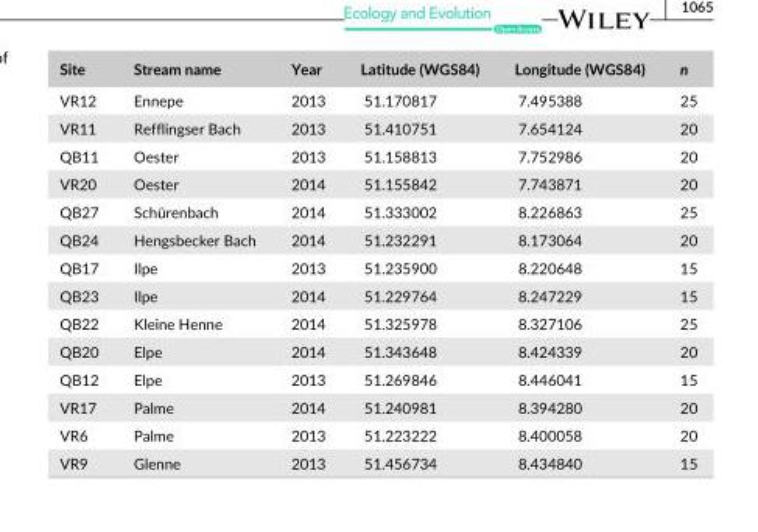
<table><thead><tr><td>Site</td><td>Stream name</td><td>Year</td><td>Latitude (WGS84)</td><td>Longitude (WGS84)</td><td>n</td></tr></thead><tbody><tr><td>VR12</td><td>Ennepe</td><td>2013</td><td>51.170817</td><td>7.495388</td><td>25</td></tr><tr><td>VR11</td><td>Refflingser Bach</td><td>2013</td><td>51.410751</td><td>7.654124</td><td>20</td></tr><tr><td>QB11</td><td>Oester</td><td>2013</td><td>51.158813</td><td>7.752986</td><td>20</td></tr><tr><td>VR20</td><td>Oester</td><td>2014</td><td>51.155842</td><td>7.743871</td><td>20</td></tr><tr><td>QB27</td><td>Schürenbach</td><td>2014</td><td>51.333002</td><td>8.226863</td><td>25</td></tr><tr><td>QB24</td><td>Hengsbecker Bach</td><td>2014</td><td>51.232291</td><td>8.173064</td><td>20</td></tr><tr><td>QB17</td><td>Ilpe</td><td>2013</td><td>51.235900</td><td>8.220648</td><td>15</td></tr><tr><td>QB23</td><td>Ilpe</td><td>2014</td><td>51.229764</td><td>8.247229</td><td>15</td></tr><tr><td>QB22</td><td>Kleine Henne</td><td>2014</td><td>51.325978</td><td>8.327106</td><td>25</td></tr><tr><td>QB20</td><td>Elpe</td><td>2014</td><td>51.343648</td><td>8.424339</td><td>20</td></tr><tr><td>QB12</td><td>Elpe</td><td>2013</td><td>51.269846</td><td>8.446041</td><td>15</td></tr><tr><td>VR17</td><td>Palme</td><td>2014</td><td>51.240981</td><td>8.394280</td><td>20</td></tr><tr><td>VR6</td><td>Palme</td><td>2013</td><td>51.223222</td><td>8.400058</td><td>20</td></tr><tr><td>VR9</td><td>Glenne</td><td>2013</td><td>51.456734</td><td>8.434840</td><td>15</td></tr></tbody></table>